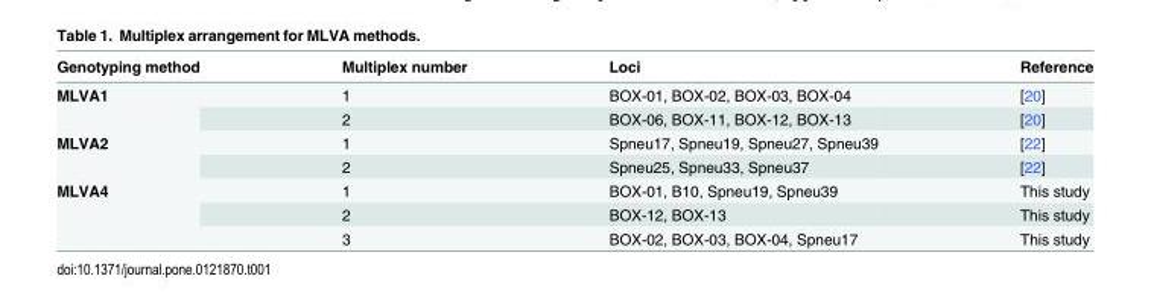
<table><thead><tr><td>Genotyping method</td><td>Multiplex number</td><td>Loci</td><td>Reference</td></tr></thead><tbody><tr><td rowspan="2">MLVA1</td><td>1</td><td>BOX-01, BOX-02, BOX-03, BOX-04</td><td>[20]</td></tr><tr><td>2</td><td>BOX-06, BOX-11, BOX-12, BOX-13</td><td>[20]</td></tr><tr><td rowspan="2">MLVA2</td><td>1</td><td>Spneu17, Spneu19, Spneu27, Spneu39</td><td>[22]</td></tr><tr><td>2</td><td>Spneu25, Spneu33, Spneu37</td><td>[22]</td></tr><tr><td rowspan="3">MLVA4</td><td>1</td><td>BOX-01, B10, Spneu19, Spneu39</td><td>This study</td></tr><tr><td>2</td><td>BOX-12, BOX-13</td><td>This study</td></tr><tr><td>3</td><td>BOX-02, BOX-03, BOX-04, Spneu17</td><td>This study</td></tr></tbody></table>